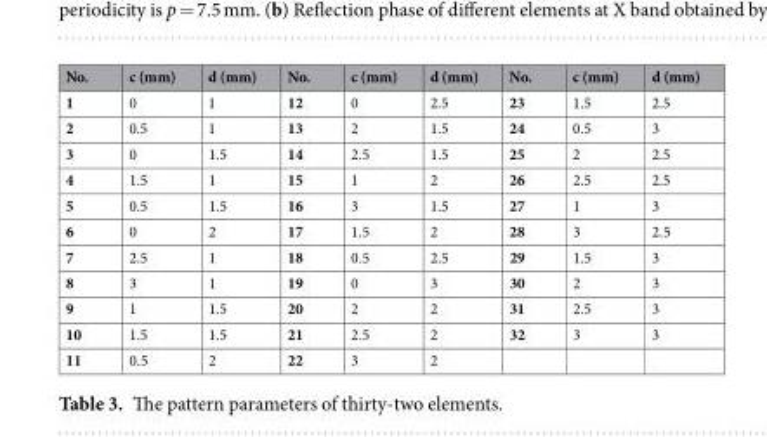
<table><thead><tr><td>No.</td><td>c (mm)</td><td>d (mm)</td><td>No.</td><td>c (mm)</td><td>d (mm)</td><td>No.</td><td>c (mm)</td><td>d (mm)</td></tr></thead><tbody><tr><td>1</td><td>0</td><td>1</td><td>12</td><td>0</td><td>2.5</td><td>23</td><td>1.5</td><td>2.5</td></tr><tr><td>2</td><td>0.5</td><td>1</td><td>13</td><td>2</td><td>1.5</td><td>24</td><td>0.5</td><td>3</td></tr><tr><td>3</td><td>0</td><td>1.5</td><td>14</td><td>2.5</td><td>1.5</td><td>25</td><td>2</td><td>2.5</td></tr><tr><td>4</td><td>1.5</td><td>1</td><td>15</td><td>1</td><td>2</td><td>26</td><td>2.5</td><td>2.5</td></tr><tr><td>5</td><td>0.5</td><td>1.5</td><td>16</td><td>3</td><td>1.5</td><td>27</td><td>1</td><td>3</td></tr><tr><td>6</td><td>0</td><td>2</td><td>17</td><td>1.5</td><td>2</td><td>28</td><td>3</td><td>2.5</td></tr><tr><td>7</td><td>2.5</td><td>1</td><td>18</td><td>0.5</td><td>2.5</td><td>29</td><td>1.5</td><td>3</td></tr><tr><td>8</td><td>3</td><td>1</td><td>19</td><td>0</td><td>3</td><td>30</td><td>2</td><td>3</td></tr><tr><td>9</td><td>1</td><td>1.5</td><td>20</td><td>2</td><td>2</td><td>31</td><td>2.5</td><td>3</td></tr><tr><td>10</td><td>1.5</td><td>1.5</td><td>21</td><td>2.5</td><td>2</td><td>32</td><td>3</td><td>3</td></tr><tr><td>11</td><td>0.5</td><td>2</td><td>22</td><td>3</td><td>2</td><td></td><td></td><td></td></tr></tbody></table>